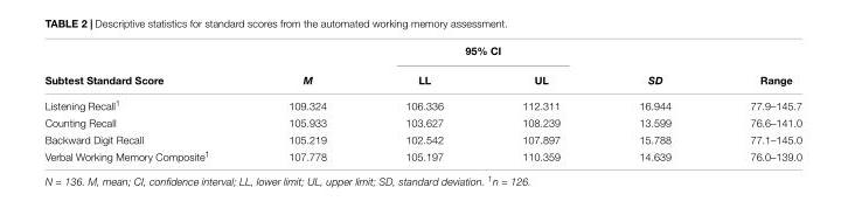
<table><thead><tr><td rowspan="2">Subtest Standard Score</td><td rowspan="2">M</td><td colspan="2">95% CI</td><td rowspan="2">SD</td><td rowspan="2">Range</td></tr><tr><td>LL</td><td>UL</td></tr></thead><tbody><tr><td>Listening Recall<sup>1</sup></td><td>109.324</td><td>106.336</td><td>112.311</td><td>16.944</td><td>77.9–145.7</td></tr><tr><td>Counting Recall</td><td>105.933</td><td>103.627</td><td>108.239</td><td>13.599</td><td>76.6–141.0</td></tr><tr><td>Backward Digit Recall</td><td>105.219</td><td>102.542</td><td>107.897</td><td>15.788</td><td>77.1–145.0</td></tr><tr><td>Verbal Working Memory Composite<sup>1</sup></td><td>107.778</td><td>105.197</td><td>110.359</td><td>14.639</td><td>76.0–139.0</td></tr></tbody></table>